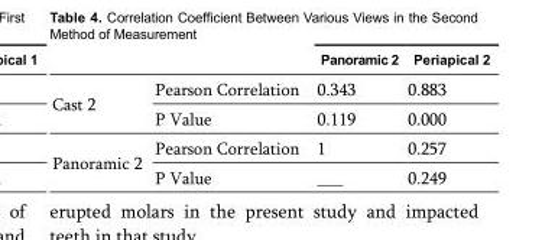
<table><thead><tr><td></td><td></td><td>Panoramic 2</td><td>Periapical 2</td></tr></thead><tbody><tr><td rowspan="2">Cast 2</td><td>Pearson Correlation</td><td>0.343</td><td>0.883</td></tr><tr><td>P Value</td><td>0.119</td><td>0.000</td></tr><tr><td rowspan="2">Panoramic 2</td><td>Pearson Correlation</td><td>1</td><td>0.257</td></tr><tr><td>P Value</td><td>___</td><td>0.249</td></tr></tbody></table>